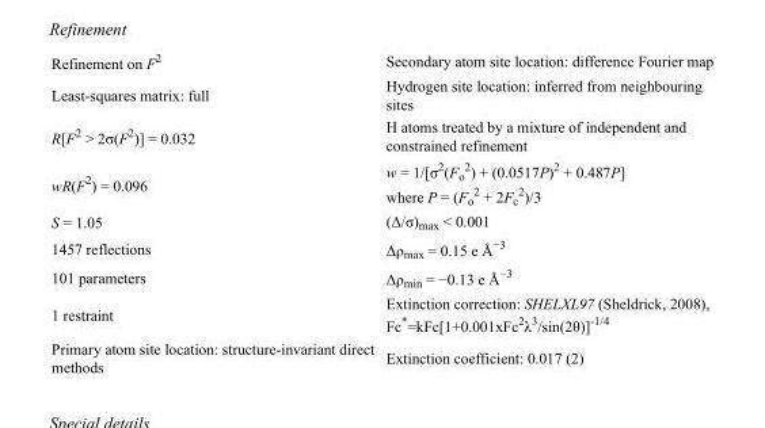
<table><tbody><tr><td>Refinement on F<sup>2</sup></td><td>Secondary atom site location: difference Fourier map</td></tr><tr><td>Least-squares matrix: full</td><td>Hydrogen site location: inferred from neighbouring sites</td></tr><tr><td>R[F<sup>2</sup> &gt; 2σ(F<sup>2</sup>)] = 0.032</td><td>H atoms treated by a mixture of independent and constrained refinement</td></tr><tr><td>wR(F<sup>2</sup>) = 0.096</td><td>w = 1/[σ<sup>2</sup>(F<sub>o</sub> <sup>2</sup>) + (0.0517P)<sup>2</sup> + 0.487P] where P = (F<sub>o</sub> <sup>2</sup> + 2F<sub>c</sub> <sup>2</sup>)/3</td></tr><tr><td>S = 1.05</td><td>(Δ/σ)<sub>max</sub> &lt; 0.001</td></tr><tr><td>1457 reflections</td><td>Δρ<sub>max</sub> = 0.15 e Å<sup>−3</sup></td></tr><tr><td>101 parameters</td><td>Δρ<sub>min</sub> = −0.13 e Å<sup>−3</sup></td></tr><tr><td>1 restraint</td><td>Extinction correction: SHELXL97 (Sheldrick, 2008), Fc*=kFc[1+0.001xFc<sup>2</sup>λ<sup>3</sup>/sin(2θ)]<sup>-1/4</sup></td></tr><tr><td>Primary atom site location: structure-invariant direct methods</td><td>Extinction coefficient: 0.017 (2)</td></tr></tbody></table>